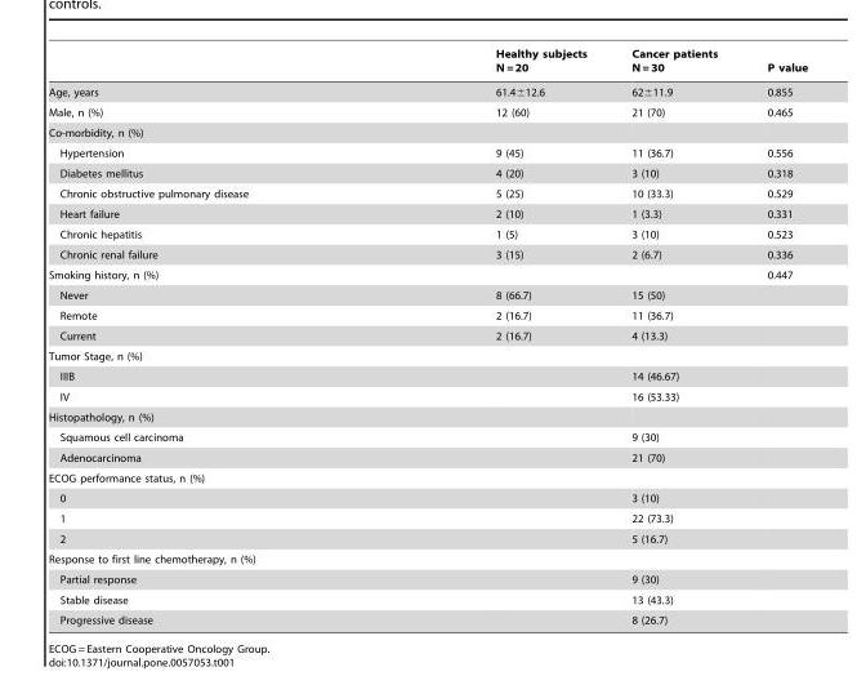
<table><thead><tr><td></td><td>Healthy subjects N = 20</td><td>Cancer patients N = 30</td><td>P value</td></tr></thead><tbody><tr><td>Age, years</td><td>61.4±12.6</td><td>62±11.9</td><td>0.855</td></tr><tr><td>Male, n (%)</td><td>12 (60)</td><td>21 (70)</td><td>0.465</td></tr><tr><td colspan="4">Co-morbidity, n (%)</td></tr><tr><td>Hypertension</td><td>9 (45)</td><td>11 (36.7)</td><td>0.556</td></tr><tr><td>Diabetes mellitus</td><td>4 (20)</td><td>3 (10)</td><td>0.318</td></tr><tr><td>Chronic obstructive pulmonary disease</td><td>5 (25)</td><td>10 (33.3)</td><td>0.529</td></tr><tr><td>Heart failure</td><td>2 (10)</td><td>1 (3.3)</td><td>0.331</td></tr><tr><td>Chronic hepatitis</td><td>1 (5)</td><td>3 (10)</td><td>0.523</td></tr><tr><td>Chronic renal failure</td><td>3 (15)</td><td>2 (6.7)</td><td>0.336</td></tr><tr><td>Smoking history, n (%)</td><td></td><td></td><td>0.447</td></tr><tr><td>Never</td><td>8 (66.7)</td><td>15 (50)</td><td></td></tr><tr><td>Remote</td><td>2 (16.7)</td><td>11 (36.7)</td><td></td></tr><tr><td>Current</td><td>2 (16.7)</td><td>4 (13.3)</td><td></td></tr><tr><td colspan="4">Tumor Stage, n (%)</td></tr><tr><td>IIIB</td><td></td><td>14 (46.67)</td><td></td></tr><tr><td>IV</td><td></td><td>16 (53.33)</td><td></td></tr><tr><td colspan="4">Histopathology, n (%)</td></tr><tr><td>Squamous cell carcinoma</td><td></td><td>9 (30)</td><td></td></tr><tr><td>Adenocarcinoma</td><td></td><td>21 (70)</td><td></td></tr><tr><td colspan="4">ECOG performance status, n (%)</td></tr><tr><td>0</td><td></td><td>3 (10)</td><td></td></tr><tr><td>1</td><td></td><td>22 (73.3)</td><td></td></tr><tr><td>2</td><td></td><td>5 (16.7)</td><td></td></tr><tr><td colspan="4">Response to first line chemotherapy, n (%)</td></tr><tr><td>Partial response</td><td></td><td>9 (30)</td><td></td></tr><tr><td>Stable disease</td><td></td><td>13 (43.3)</td><td></td></tr><tr><td>Progressive disease</td><td></td><td>8 (26.7)</td><td></td></tr></tbody></table>